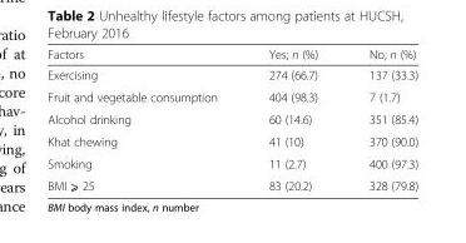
<table><thead><tr><td>Factors</td><td>Yes; n (%)</td><td>No; n (%)</td></tr></thead><tbody><tr><td>Exercising</td><td>274 (66.7)</td><td>137 (33.3)</td></tr><tr><td>Fruit and vegetable consumption</td><td>404 (98.3)</td><td>7 (1.7)</td></tr><tr><td>Alcohol drinking</td><td>60 (14.6)</td><td>351 (85.4)</td></tr><tr><td>Khat chewing</td><td>41 (10)</td><td>370 (90.0)</td></tr><tr><td>Smoking</td><td>11 (2.7)</td><td>400 (97.3)</td></tr><tr><td>BMI ⩾ 25</td><td>83 (20.2)</td><td>328 (79.8)</td></tr></tbody></table>